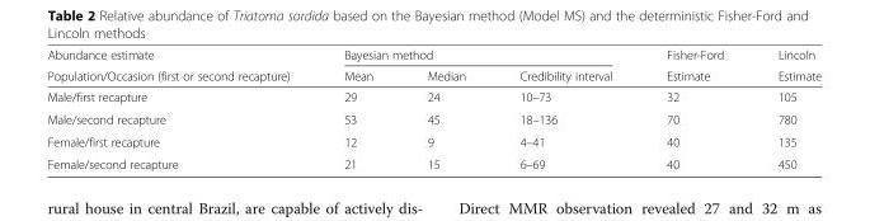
<table><thead><tr><td rowspan="2">Abundance estimate Population/Occasion (first or second recapture)</td><td colspan="3">Bayesian method</td><td rowspan="2">Fisher-Ford Estimate</td><td rowspan="2">Lincoln Estimate</td></tr><tr><td>Mean</td><td>Median</td><td>Credibility interval</td></tr></thead><tbody><tr><td>Male/first recapture</td><td>29</td><td>24</td><td>10–73</td><td>32</td><td>105</td></tr><tr><td>Male/second recapture</td><td>53</td><td>45</td><td>18–136</td><td>70</td><td>780</td></tr><tr><td>Female/first recapture</td><td>12</td><td>9</td><td>4–41</td><td>40</td><td>135</td></tr><tr><td>Female/second recapture</td><td>21</td><td>15</td><td>6–69</td><td>40</td><td>450</td></tr></tbody></table>